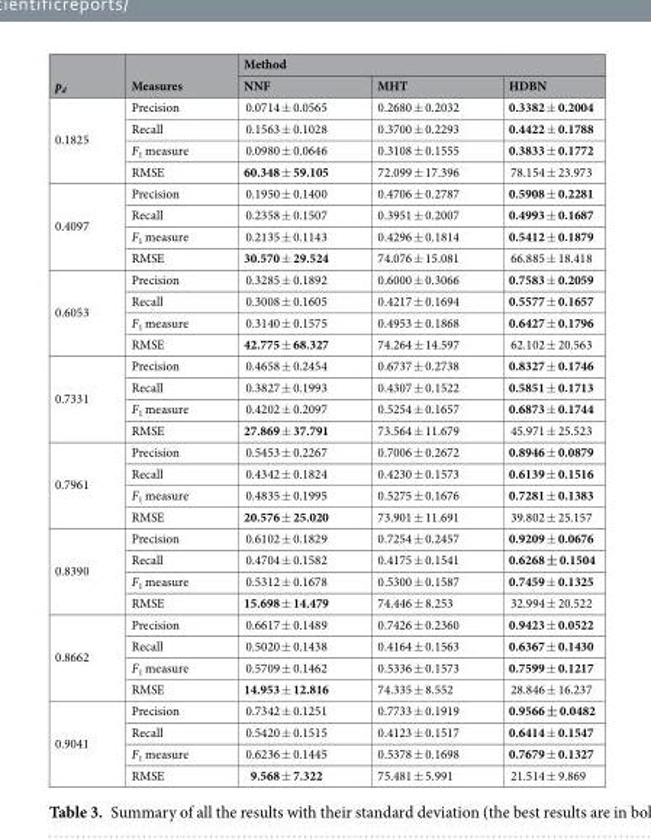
<table><thead><tr><td rowspan="2">p<sub>d</sub></td><td rowspan="2">Measures</td><td colspan="3">Method</td></tr><tr><td>NNF</td><td>MHT</td><td>HDBN</td></tr></thead><tbody><tr><td rowspan="4">0.1825</td><td>Precision</td><td>0.0714 ± 0.0565</td><td>0.2680 ± 0.2032</td><td>0.3382 ± 0.2004</td></tr><tr><td>Recall</td><td>0.1563 ± 0.1028</td><td>0.3700 ± 0.2293</td><td>0.4422 ± 0.1788</td></tr><tr><td>F<sub>1</sub> measure</td><td>0.0980 ± 0.0646</td><td>0.3108 ± 0.1555</td><td>0.3833 ± 0.1772</td></tr><tr><td>RMSE</td><td>60.348 ± 59.105</td><td>72.099 ± 17.396</td><td>78.154 ± 23.973</td></tr><tr><td rowspan="4">0.4097</td><td>Precision</td><td>0.1950 ± 0.1400</td><td>0.4706 ± 0.2787</td><td>0.5908 ± 0.2281</td></tr><tr><td>Recall</td><td>0.2358 ± 0.1507</td><td>0.3951 ± 0.2007</td><td>0.4993 ± 0.1687</td></tr><tr><td>F<sub>1</sub> measure</td><td>0.2135 ± 0.1143</td><td>0.4296 ± 0.1814</td><td>0.5412 ± 0.1879</td></tr><tr><td>RMSE</td><td>30.570 ± 29.524</td><td>74.076 ± 15.081</td><td>66.885 ± 18.418</td></tr><tr><td rowspan="4">0.6053</td><td>Precision</td><td>0.3285 ± 0.1892</td><td>0.6000 ± 0.3066</td><td>0.7583 ± 0.2059</td></tr><tr><td>Recall</td><td>0.3008 ± 0.1605</td><td>0.4217 ± 0.1694</td><td>0.5577 ± 0.1657</td></tr><tr><td>F<sub>1</sub> measure</td><td>0.3140 ± 0.1575</td><td>0.4953 ± 0.1868</td><td>0.6427 ± 0.1796</td></tr><tr><td>RMSE</td><td>42.775 ± 68.327</td><td>74.264 ± 14.597</td><td>62.102 ± 20.563</td></tr><tr><td rowspan="4">0.7331</td><td>Precision</td><td>0.4658 ± 0.2454</td><td>0.6737 ± 0.2738</td><td>0.8327 ± 0.1746</td></tr><tr><td>Recall</td><td>0.3827 ± 0.1993</td><td>0.4307 ± 0.1522</td><td>0.5851 ± 0.1713</td></tr><tr><td>F<sub>1</sub> measure</td><td>0.4202 ± 0.2097</td><td>0.5254 ± 0.1657</td><td>0.6873 ± 0.1744</td></tr><tr><td>RMSE</td><td>27.869 ± 37.791</td><td>73.564 ± 11.679</td><td>45.971 ± 25.523</td></tr><tr><td rowspan="4">0.7961</td><td>Precision</td><td>0.5453 ± 0.2267</td><td>0.7006 ± 0.2672</td><td>0.8946 ± 0.0879</td></tr><tr><td>Recall</td><td>0.4342 ± 0.1824</td><td>0.4230 ± 0.1573</td><td>0.6139 ± 0.1516</td></tr><tr><td>F<sub>1</sub> measure</td><td>0.4835 ± 0.1995</td><td>0.5275 ± 0.1676</td><td>0.7281 ± 0.1383</td></tr><tr><td>RMSE</td><td>20.576 ± 25.020</td><td>73.901 ± 11.691</td><td>39.802 ± 25.157</td></tr><tr><td rowspan="4">0.8390</td><td>Precision</td><td>0.6102 ± 0.1829</td><td>0.7254 ± 0.2457</td><td>0.9209 ± 0.0676</td></tr><tr><td>Recall</td><td>0.4704 ± 0.1582</td><td>0.4175 ± 0.1541</td><td>0.6268 ± 0.1504</td></tr><tr><td>F<sub>1</sub> measure</td><td>0.5312 ± 0.1678</td><td>0.5300 ± 0.1587</td><td>0.7459 ± 0.1325</td></tr><tr><td>RMSE</td><td>15.698 ± 14.479</td><td>74.446 ± 8.253</td><td>32.994 ± 20.522</td></tr><tr><td rowspan="4">0.8662</td><td>Precision</td><td>0.6617 ± 0.1489</td><td>0.7426 ± 0.2360</td><td>0.9423 ± 0.0522</td></tr><tr><td>Recall</td><td>0.5020 ± 0.1438</td><td>0.4164 ± 0.1563</td><td>0.6367 ± 0.1430</td></tr><tr><td>F<sub>1</sub> measure</td><td>0.5709 ± 0.1462</td><td>0.5336 ± 0.1573</td><td>0.7599 ± 0.1217</td></tr><tr><td>RMSE</td><td>14.953 ± 12.816</td><td>74.335 ± 8.552</td><td>28.846 ± 16.237</td></tr><tr><td rowspan="4">0.9041</td><td>Precision</td><td>0.7342 ± 0.1251</td><td>0.7733 ± 0.1919</td><td>0.9566 ± 0.0482</td></tr><tr><td>Recall</td><td>0.5420 ± 0.1515</td><td>0.4123 ± 0.1517</td><td>0.6414 ± 0.1547</td></tr><tr><td>F<sub>1</sub> measure</td><td>0.6236 ± 0.1445</td><td>0.5378 ± 0.1698</td><td>0.7679 ± 0.1327</td></tr><tr><td>RMSE</td><td>9.568 ± 7.322</td><td>75.481 ± 5.991</td><td>21.514 ± 9.869</td></tr></tbody></table>